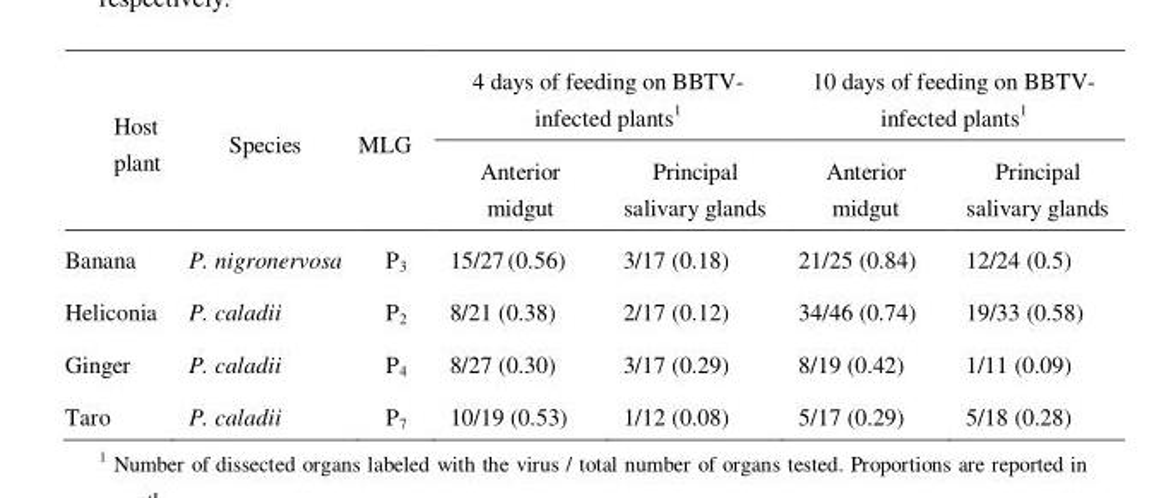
<table><thead><tr><td rowspan="2">Host plant</td><td rowspan="2">Species</td><td rowspan="2">MLG</td><td colspan="2">4 days of feeding on BBTV- infected plants<sup>1</sup></td><td colspan="2">10 days of feeding on BBTV- infected plants<sup>1</sup></td></tr><tr><td>Anterior midgut</td><td>Principal salivary glands</td><td>Anterior midgut</td><td>Principal salivary glands</td></tr></thead><tbody><tr><td>Banana</td><td>P. nigronervosa</td><td>P<sub>3</sub></td><td>15/27 (0.56)</td><td>3/17 (0.18)</td><td>21/25 (0.84)</td><td>12/24 (0.5)</td></tr><tr><td>Heliconia</td><td>P. caladii</td><td>P<sub>2</sub></td><td>8/21 (0.38)</td><td>2/17 (0.12)</td><td>34/46 (0.74)</td><td>19/33 (0.58)</td></tr><tr><td>Ginger</td><td>P. caladii</td><td>P<sub>4</sub></td><td>8/27 (0.30)</td><td>3/17 (0.29)</td><td>8/19 (0.42)</td><td>1/11 (0.09)</td></tr><tr><td>Taro</td><td>P. caladii</td><td>P<sub>7</sub></td><td>10/19 (0.53)</td><td>1/12 (0.08)</td><td>5/17 (0.29)</td><td>5/18 (0.28)</td></tr></tbody></table>